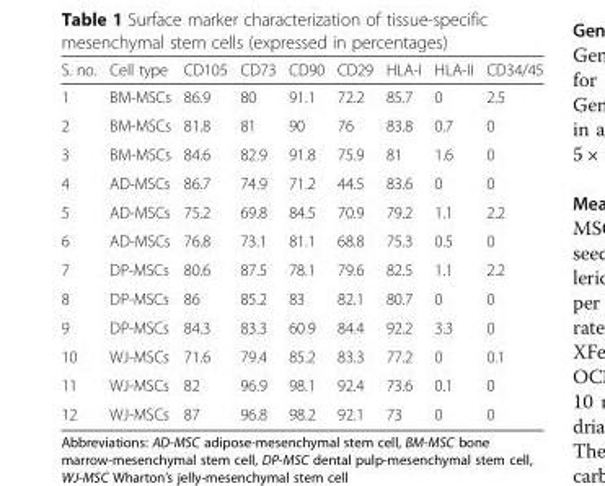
<table><thead><tr><td>S. no.</td><td>Cell type</td><td>CD105</td><td>CD73</td><td>CD90</td><td>CD29</td><td>HLA-I</td><td>HLA-II</td><td>CD34/45</td></tr></thead><tbody><tr><td>1</td><td>BM-MSCs</td><td>86.9</td><td>80</td><td>91.1</td><td>72.2</td><td>85.7</td><td>0</td><td>2.5</td></tr><tr><td>2</td><td>BM-MSCs</td><td>81.8</td><td>81</td><td>90</td><td>76</td><td>83.8</td><td>0.7</td><td>0</td></tr><tr><td>3</td><td>BM-MSCs</td><td>84.6</td><td>82.9</td><td>91.8</td><td>75.9</td><td>81</td><td>1.6</td><td>0</td></tr><tr><td>4</td><td>AD-MSCs</td><td>86.7</td><td>74.9</td><td>71.2</td><td>44.5</td><td>83.6</td><td>0</td><td>0</td></tr><tr><td>5</td><td>AD-MSCs</td><td>75.2</td><td>69.8</td><td>84.5</td><td>70.9</td><td>79.2</td><td>1.1</td><td>2.2</td></tr><tr><td>6</td><td>AD-MSCs</td><td>76.8</td><td>73.1</td><td>81.1</td><td>68.8</td><td>75.3</td><td>0.5</td><td>0</td></tr><tr><td>7</td><td>DP-MSCs</td><td>80.6</td><td>87.5</td><td>78.1</td><td>79.6</td><td>82.5</td><td>1.1</td><td>2.2</td></tr><tr><td>8</td><td>DP-MSCs</td><td>86</td><td>85.2</td><td>83</td><td>82.1</td><td>80.7</td><td>0</td><td>0</td></tr><tr><td>9</td><td>DP-MSCs</td><td>84.3</td><td>83.3</td><td>60.9</td><td>84.4</td><td>92.2</td><td>3.3</td><td>0</td></tr><tr><td>10</td><td>WJ-MSCs</td><td>71.6</td><td>79.4</td><td>85.2</td><td>83.3</td><td>77.2</td><td>0</td><td>0.1</td></tr><tr><td>11</td><td>WJ-MSCs</td><td>82</td><td>96.9</td><td>98.1</td><td>92.4</td><td>73.6</td><td>0.1</td><td>0</td></tr><tr><td>12</td><td>WJ-MSCs</td><td>87</td><td>96.8</td><td>98.2</td><td>92.1</td><td>73</td><td>0</td><td>0</td></tr></tbody></table>